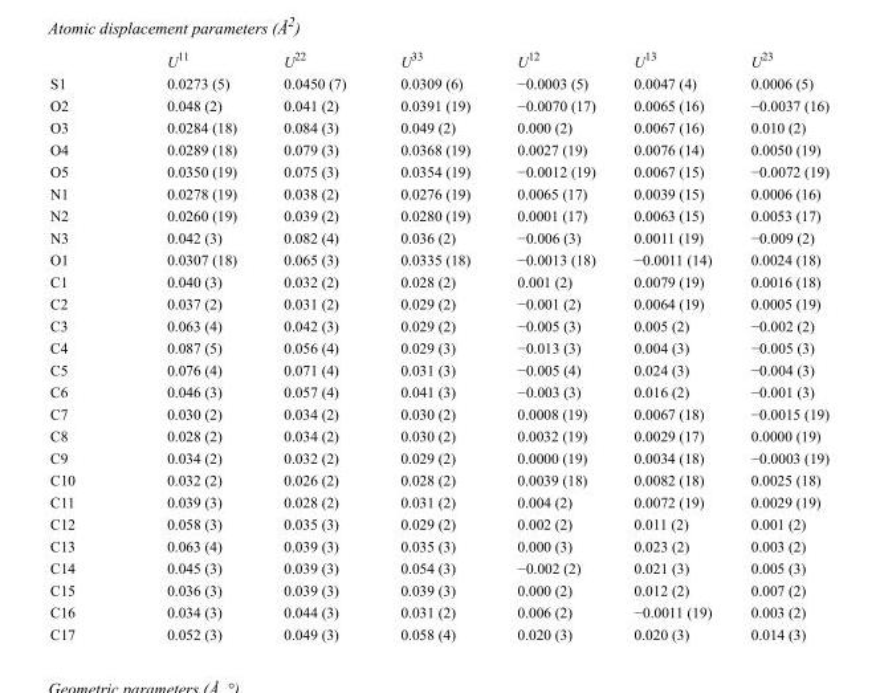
<table><thead><tr><td></td><td>U<sup>11</sup></td><td>U<sup>22</sup></td><td>U<sup>33</sup></td><td>U<sup>12</sup></td><td>U<sup>13</sup></td><td>U<sup>23</sup></td></tr></thead><tbody><tr><td>S1</td><td>0.0273 (5)</td><td>0.0450 (7)</td><td>0.0309 (6)</td><td>−0.0003 (5)</td><td>0.0047 (4)</td><td>0.0006 (5)</td></tr><tr><td>O2</td><td>0.048 (2)</td><td>0.041 (2)</td><td>0.0391 (19)</td><td>−0.0070 (17)</td><td>0.0065 (16)</td><td>−0.0037 (16)</td></tr><tr><td>O3</td><td>0.0284 (18)</td><td>0.084 (3)</td><td>0.049 (2)</td><td>0.000 (2)</td><td>0.0067 (16)</td><td>0.010 (2)</td></tr><tr><td>O4</td><td>0.0289 (18)</td><td>0.079 (3)</td><td>0.0368 (19)</td><td>0.0027 (19)</td><td>0.0076 (14)</td><td>0.0050 (19)</td></tr><tr><td>O5</td><td>0.0350 (19)</td><td>0.075 (3)</td><td>0.0354 (19)</td><td>−0.0012 (19)</td><td>0.0067 (15)</td><td>−0.0072 (19)</td></tr><tr><td>N1</td><td>0.0278 (19)</td><td>0.038 (2)</td><td>0.0276 (19)</td><td>0.0065 (17)</td><td>0.0039 (15)</td><td>0.0006 (16)</td></tr><tr><td>N2</td><td>0.0260 (19)</td><td>0.039 (2)</td><td>0.0280 (19)</td><td>0.0001 (17)</td><td>0.0063 (15)</td><td>0.0053 (17)</td></tr><tr><td>N3</td><td>0.042 (3)</td><td>0.082 (4)</td><td>0.036 (2)</td><td>−0.006 (3)</td><td>0.0011 (19)</td><td>−0.009 (2)</td></tr><tr><td>O1</td><td>0.0307 (18)</td><td>0.065 (3)</td><td>0.0335 (18)</td><td>−0.0013 (18)</td><td>−0.0011 (14)</td><td>0.0024 (18)</td></tr><tr><td>C1</td><td>0.040 (3)</td><td>0.032 (2)</td><td>0.028 (2)</td><td>0.001 (2)</td><td>0.0079 (19)</td><td>0.0016 (18)</td></tr><tr><td>C2</td><td>0.037 (2)</td><td>0.031 (2)</td><td>0.029 (2)</td><td>−0.001 (2)</td><td>0.0064 (19)</td><td>0.0005 (19)</td></tr><tr><td>C3</td><td>0.063 (4)</td><td>0.042 (3)</td><td>0.029 (2)</td><td>−0.005 (3)</td><td>0.005 (2)</td><td>−0.002 (2)</td></tr><tr><td>C4</td><td>0.087 (5)</td><td>0.056 (4)</td><td>0.029 (3)</td><td>−0.013 (3)</td><td>0.004 (3)</td><td>−0.005 (3)</td></tr><tr><td>C5</td><td>0.076 (4)</td><td>0.071 (4)</td><td>0.031 (3)</td><td>−0.005 (4)</td><td>0.024 (3)</td><td>−0.004 (3)</td></tr><tr><td>C6</td><td>0.046 (3)</td><td>0.057 (4)</td><td>0.041 (3)</td><td>−0.003 (3)</td><td>0.016 (2)</td><td>−0.001 (3)</td></tr><tr><td>C7</td><td>0.030 (2)</td><td>0.034 (2)</td><td>0.030 (2)</td><td>0.0008 (19)</td><td>0.0067 (18)</td><td>−0.0015 (19)</td></tr><tr><td>C8</td><td>0.028 (2)</td><td>0.034 (2)</td><td>0.030 (2)</td><td>0.0032 (19)</td><td>0.0029 (17)</td><td>0.0000 (19)</td></tr><tr><td>C9</td><td>0.034 (2)</td><td>0.032 (2)</td><td>0.029 (2)</td><td>0.0000 (19)</td><td>0.0034 (18)</td><td>−0.0003 (19)</td></tr><tr><td>C10</td><td>0.032 (2)</td><td>0.026 (2)</td><td>0.028 (2)</td><td>0.0039 (18)</td><td>0.0082 (18)</td><td>0.0025 (18)</td></tr><tr><td>C11</td><td>0.039 (3)</td><td>0.028 (2)</td><td>0.031 (2)</td><td>0.004 (2)</td><td>0.0072 (19)</td><td>0.0029 (19)</td></tr><tr><td>C12</td><td>0.058 (3)</td><td>0.035 (3)</td><td>0.029 (2)</td><td>0.002 (2)</td><td>0.011 (2)</td><td>0.001 (2)</td></tr><tr><td>C13</td><td>0.063 (4)</td><td>0.039 (3)</td><td>0.035 (3)</td><td>0.000 (3)</td><td>0.023 (2)</td><td>0.003 (2)</td></tr><tr><td>C14</td><td>0.045 (3)</td><td>0.039 (3)</td><td>0.054 (3)</td><td>−0.002 (2)</td><td>0.021 (3)</td><td>0.005 (3)</td></tr><tr><td>C15</td><td>0.036 (3)</td><td>0.039 (3)</td><td>0.039 (3)</td><td>0.000 (2)</td><td>0.012 (2)</td><td>0.007 (2)</td></tr><tr><td>C16</td><td>0.034 (3)</td><td>0.044 (3)</td><td>0.031 (2)</td><td>0.006 (2)</td><td>−0.0011 (19)</td><td>0.003 (2)</td></tr><tr><td>C17</td><td>0.052 (3)</td><td>0.049 (3)</td><td>0.058 (4)</td><td>0.020 (3)</td><td>0.020 (3)</td><td>0.014 (3)</td></tr></tbody></table>